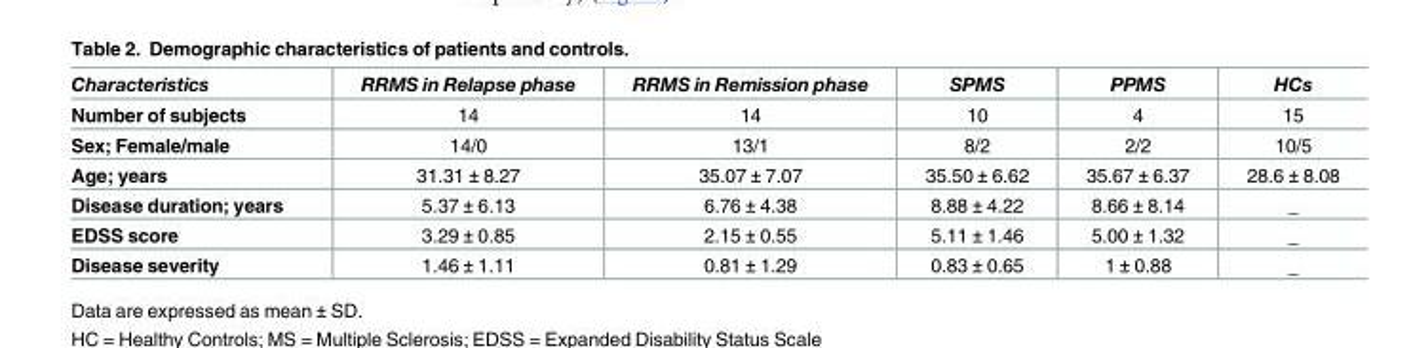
<table><thead><tr><td>Characteristics</td><td>RRMS in Relapse phase</td><td>RRMS in Remission phase</td><td>SPMS</td><td>PPMS</td><td>HCs</td></tr></thead><tbody><tr><td>Number of subjects</td><td>14</td><td>14</td><td>10</td><td>4</td><td>15</td></tr><tr><td>Sex; Female/male</td><td>14/0</td><td>13/1</td><td>8/2</td><td>2/2</td><td>10/5</td></tr><tr><td>Age; years</td><td>31.31 ± 8.27</td><td>35.07 ± 7.07</td><td>35.50 ± 6.62</td><td>35.67 ± 6.37</td><td>28.6 ± 8.08</td></tr><tr><td>Disease duration; years</td><td>5.37 ± 6.13</td><td>6.76 ± 4.38</td><td>8.88 ± 4.22</td><td>8.66 ± 8.14</td><td>_</td></tr><tr><td>EDSS score</td><td>3.29 ± 0.85</td><td>2.15 ± 0.55</td><td>5.11 ± 1.46</td><td>5.00 ± 1.32</td><td>_</td></tr><tr><td>Disease severity</td><td>1.46 ± 1.11</td><td>0.81 ± 1.29</td><td>0.83 ± 0.65</td><td>1 ± 0.88</td><td>_</td></tr></tbody></table>